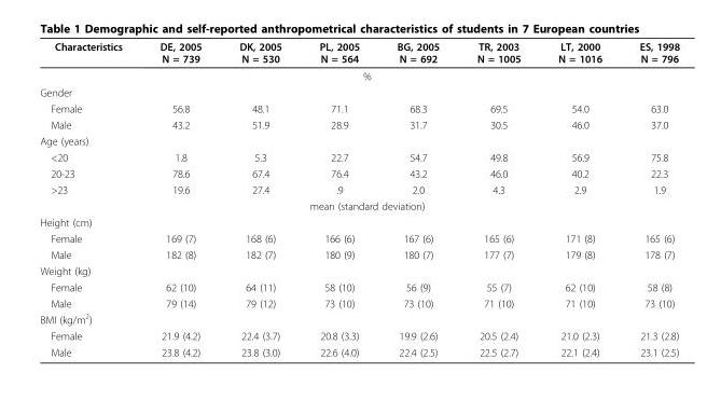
<table><thead><tr><td>Characteristics</td><td>DE, 2005 N = 739</td><td>DK, 2005 N = 530</td><td>PL, 2005 N = 564</td><td>BG, 2005 N = 692</td><td>TR, 2003 N = 1005</td><td>LT, 2000 N = 1016</td><td>ES, 1998 N = 796</td></tr><tr><td colspan="8">%</td></tr></thead><tbody><tr><td colspan="8">Gender</td></tr><tr><td>Female</td><td>56.8</td><td>48.1</td><td>71.1</td><td>68.3</td><td>69.5</td><td>54.0</td><td>63.0</td></tr><tr><td>Male</td><td>43.2</td><td>51.9</td><td>28.9</td><td>31.7</td><td>30.5</td><td>46.0</td><td>37.0</td></tr><tr><td colspan="8">Age (years)</td></tr><tr><td>&lt;20</td><td>1.8</td><td>5.3</td><td>22.7</td><td>54.7</td><td>49.8</td><td>56.9</td><td>75.8</td></tr><tr><td>20-23</td><td>78.6</td><td>67.4</td><td>76.4</td><td>43.2</td><td>46.0</td><td>40.2</td><td>22.3</td></tr><tr><td>&gt;23</td><td>19.6</td><td>27.4</td><td>.9</td><td>2.0</td><td>4.3</td><td>2.9</td><td>1.9</td></tr><tr><td colspan="8">mean (standard deviation)</td></tr><tr><td colspan="8">Height (cm)</td></tr><tr><td>Female</td><td>169 (7)</td><td>168 (6)</td><td>166 (6)</td><td>167 (6)</td><td>165 (6)</td><td>171 (8)</td><td>165 (6)</td></tr><tr><td>Male</td><td>182 (8)</td><td>182 (7)</td><td>180 (9)</td><td>180 (7)</td><td>177 (7)</td><td>179 (8)</td><td>178 (7)</td></tr><tr><td colspan="8">Weight (kg)</td></tr><tr><td>Female</td><td>62 (10)</td><td>64 (11)</td><td>58 (10)</td><td>56 (9)</td><td>55 (7)</td><td>62 (10)</td><td>58 (8)</td></tr><tr><td>Male</td><td>79 (14)</td><td>79 (12)</td><td>73 (10)</td><td>73 (10)</td><td>71 (10)</td><td>71 (10)</td><td>73 (10)</td></tr><tr><td colspan="8">BMI (kg/m<sup>2</sup>)</td></tr><tr><td>Female</td><td>21.9 (4.2)</td><td>22.4 (3.7)</td><td>20.8 (3.3)</td><td>19.9 (2.6)</td><td>20.5 (2.4)</td><td>21.0 (2.3)</td><td>21.3 (2.8)</td></tr><tr><td>Male</td><td>23.8 (4.2)</td><td>23.8 (3.0)</td><td>22.6 (4.0)</td><td>22.4 (2.5)</td><td>22.5 (2.7)</td><td>22.1 (2.4)</td><td>23.1 (2.5)</td></tr></tbody></table>